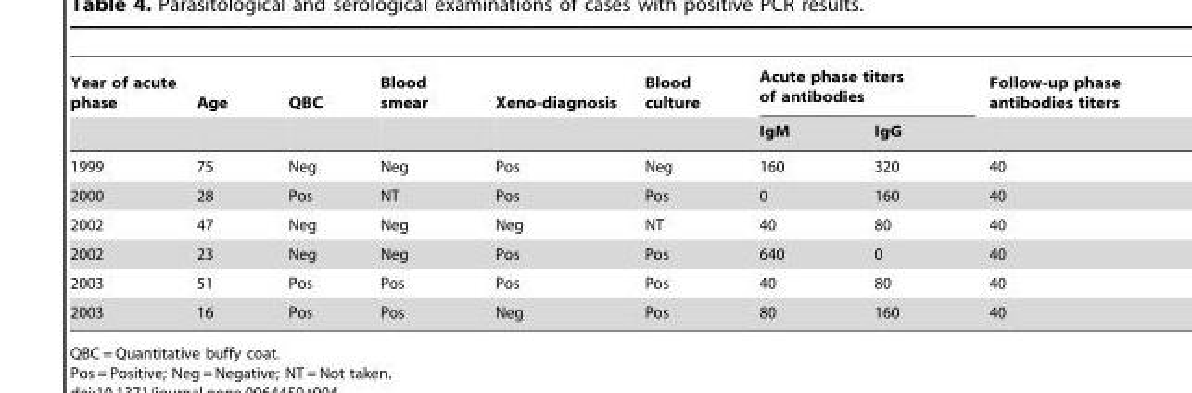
<table><thead><tr><td rowspan="2">Year of acute phase</td><td rowspan="2">Age</td><td rowspan="2">QBC</td><td rowspan="2">Blood smear</td><td rowspan="2">Xeno-diagnosis</td><td rowspan="2">Blood culture</td><td colspan="2">Acute phase titers of antibodies</td><td rowspan="2">Follow-up phase antibodies titers</td></tr><tr><td>IgM</td><td>IgG</td></tr></thead><tbody><tr><td>1999</td><td>75</td><td>Neg</td><td>Neg</td><td>Pos</td><td>Neg</td><td>160</td><td>320</td><td>40</td></tr><tr><td>2000</td><td>28</td><td>Pos</td><td>NT</td><td>Pos</td><td>Pos</td><td>0</td><td>160</td><td>40</td></tr><tr><td>2002</td><td>47</td><td>Neg</td><td>Neg</td><td>Neg</td><td>NT</td><td>40</td><td>80</td><td>40</td></tr><tr><td>2002</td><td>23</td><td>Neg</td><td>Neg</td><td>Pos</td><td>Pos</td><td>640</td><td>0</td><td>40</td></tr><tr><td>2003</td><td>51</td><td>Pos</td><td>Pos</td><td>Pos</td><td>Pos</td><td>40</td><td>80</td><td>40</td></tr><tr><td>2003</td><td>16</td><td>Pos</td><td>Pos</td><td>Neg</td><td>Pos</td><td>80</td><td>160</td><td>40</td></tr></tbody></table>